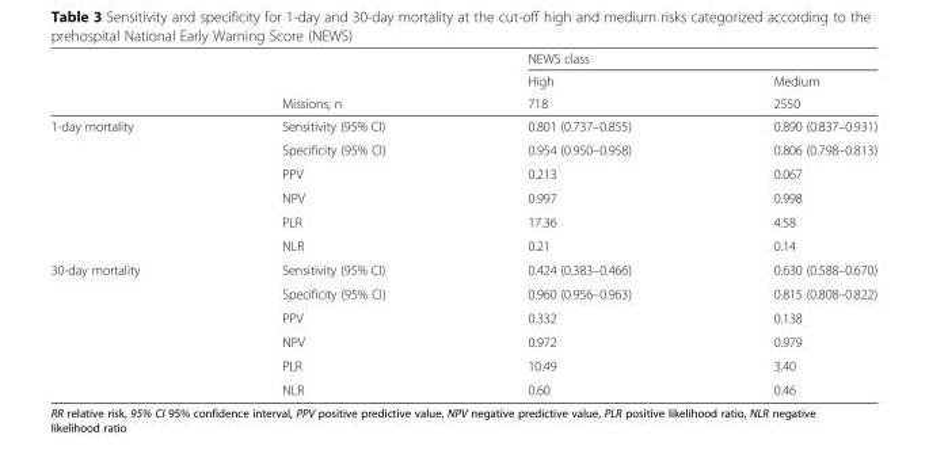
<table><thead><tr><td rowspan="3"></td><td rowspan="3">Missions, n</td><td colspan="2">NEWS class</td></tr><tr><td rowspan="2">High 718</td><td rowspan="2">Medium 2550</td></tr><tr></tr></thead><tbody><tr><td rowspan="6">1-day mortality</td><td>Sensitivity (95% CI)</td><td>0.801 (0.737–0.855)</td><td>0.890 (0.837–0.931)</td></tr><tr><td>Specificity (95% CI)</td><td>0.954 (0.950–0.958)</td><td>0.806 (0.798–0.813)</td></tr><tr><td>PPV</td><td>0.213</td><td>0.067</td></tr><tr><td>NPV</td><td>0.997</td><td>0.998</td></tr><tr><td>PLR</td><td>17.36</td><td>4.58</td></tr><tr><td>NLR</td><td>0.21</td><td>0.14</td></tr><tr><td rowspan="6">30-day mortality</td><td>Sensitivity (95% CI)</td><td>0.424 (0.383–0.466)</td><td>0.630 (0.588–0.670)</td></tr><tr><td>Specificity (95% CI)</td><td>0.960 (0.956–0.963)</td><td>0.815 (0.808–0.822)</td></tr><tr><td>PPV</td><td>0.332</td><td>0.138</td></tr><tr><td>NPV</td><td>0.972</td><td>0.979</td></tr><tr><td>PLR</td><td>10.49</td><td>3.40</td></tr><tr><td>NLR</td><td>0.60</td><td>0.46</td></tr></tbody></table>